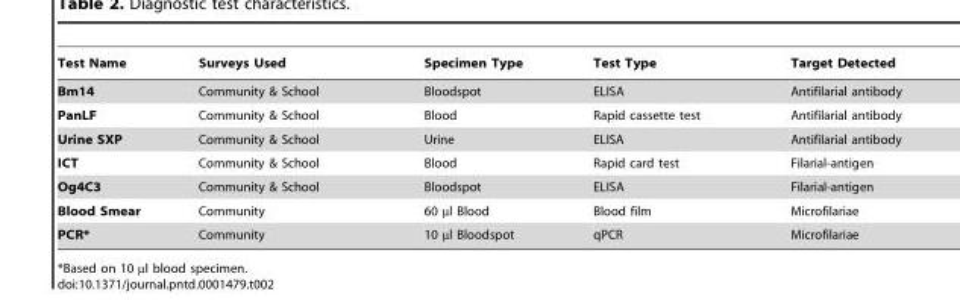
<table><thead><tr><td>Test Name</td><td>Surveys Used</td><td>Specimen Type</td><td>Test Type</td><td>Target Detected</td></tr></thead><tbody><tr><td>Bm14</td><td>Community &amp; School</td><td>Bloodspot</td><td>ELISA</td><td>Antifilarial antibody</td></tr><tr><td>PanLF</td><td>Community &amp; School</td><td>Blood</td><td>Rapid cassette test</td><td>Antifilarial antibody</td></tr><tr><td>Urine SXP</td><td>Community &amp; School</td><td>Urine</td><td>ELISA</td><td>Antifilarial antibody</td></tr><tr><td>ICT</td><td>Community &amp; School</td><td>Blood</td><td>Rapid card test</td><td>Filarial-antigen</td></tr><tr><td>Og4C3</td><td>Community &amp; School</td><td>Bloodspot</td><td>ELISA</td><td>Filarial-antigen</td></tr><tr><td>Blood Smear</td><td>Community</td><td>60 µl Blood</td><td>Blood film</td><td>Microfilariae</td></tr><tr><td>PCR*</td><td>Community</td><td>10 µl Bloodspot</td><td>qPCR</td><td>Microfilariae</td></tr></tbody></table>